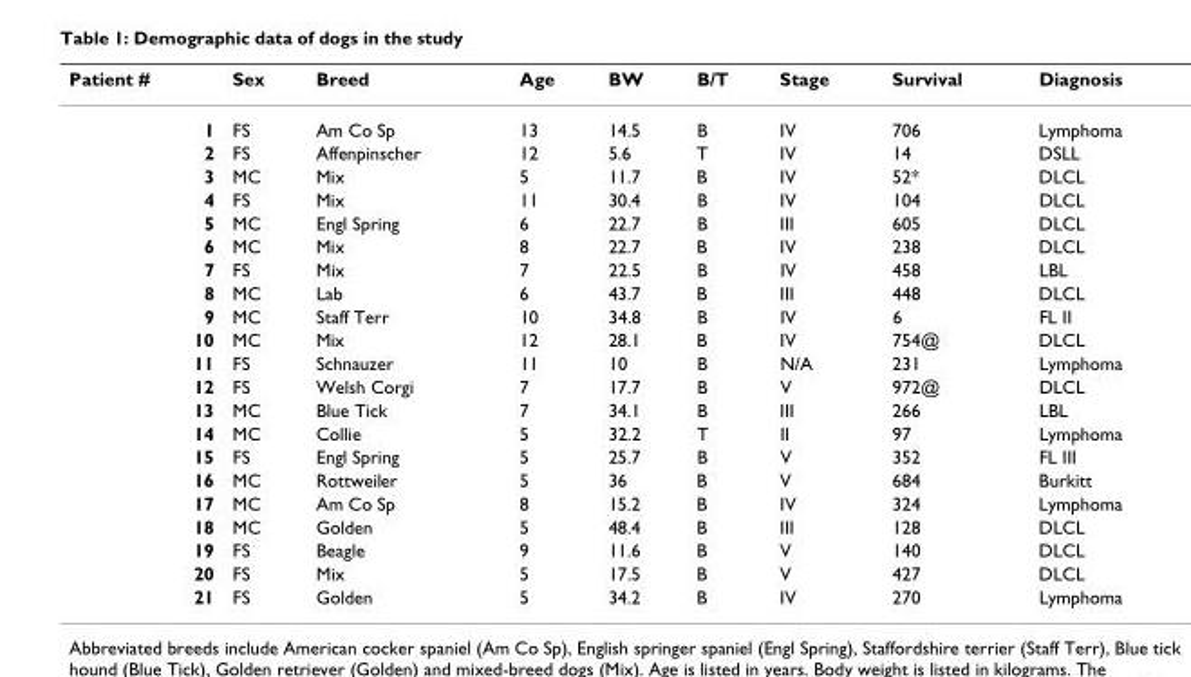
<table><thead><tr><td>Patient #</td><td>Sex</td><td>Breed</td><td>Age</td><td>BW</td><td>B/T</td><td>Stage</td><td>Survival</td><td>Diagnosis</td></tr></thead><tbody><tr><td>1</td><td>FS</td><td>Am Co Sp</td><td>13</td><td>14.5</td><td>B</td><td>IV</td><td>706</td><td>Lymphoma</td></tr><tr><td>2</td><td>FS</td><td>Affenpinscher</td><td>12</td><td>5.6</td><td>T</td><td>IV</td><td>14</td><td>DSLL</td></tr><tr><td>3</td><td>MC</td><td>Mix</td><td>5</td><td>11.7</td><td>B</td><td>IV</td><td>52*</td><td>DLCL</td></tr><tr><td>4</td><td>FS</td><td>Mix</td><td>11</td><td>30.4</td><td>B</td><td>IV</td><td>104</td><td>DLCL</td></tr><tr><td>5</td><td>MC</td><td>Engl Spring</td><td>6</td><td>22.7</td><td>B</td><td>III</td><td>605</td><td>DLCL</td></tr><tr><td>6</td><td>MC</td><td>Mix</td><td>8</td><td>22.7</td><td>B</td><td>IV</td><td>238</td><td>DLCL</td></tr><tr><td>7</td><td>FS</td><td>Mix</td><td>7</td><td>22.5</td><td>B</td><td>IV</td><td>458</td><td>LBL</td></tr><tr><td>8</td><td>MC</td><td>Lab</td><td>6</td><td>43.7</td><td>B</td><td>III</td><td>448</td><td>DLCL</td></tr><tr><td>9</td><td>MC</td><td>Staff Terr</td><td>10</td><td>34.8</td><td>B</td><td>IV</td><td>6</td><td>FL II</td></tr><tr><td>10</td><td>MC</td><td>Mix</td><td>12</td><td>28.1</td><td>B</td><td>IV</td><td>754@</td><td>DLCL</td></tr><tr><td>11</td><td>FS</td><td>Schnauzer</td><td>11</td><td>10</td><td>B</td><td>N/A</td><td>231</td><td>Lymphoma</td></tr><tr><td>12</td><td>FS</td><td>Welsh Corgi</td><td>7</td><td>17.7</td><td>B</td><td>V</td><td>972@</td><td>DLCL</td></tr><tr><td>13</td><td>MC</td><td>Blue Tick</td><td>7</td><td>34.1</td><td>B</td><td>III</td><td>266</td><td>LBL</td></tr><tr><td>14</td><td>MC</td><td>Collie</td><td>5</td><td>32.2</td><td>T</td><td>II</td><td>97</td><td>Lymphoma</td></tr><tr><td>15</td><td>FS</td><td>Engl Spring</td><td>5</td><td>25.7</td><td>B</td><td>V</td><td>352</td><td>FL III</td></tr><tr><td>16</td><td>MC</td><td>Rottweiler</td><td>5</td><td>36</td><td>B</td><td>V</td><td>684</td><td>Burkitt</td></tr><tr><td>17</td><td>MC</td><td>Am Co Sp</td><td>8</td><td>15.2</td><td>B</td><td>IV</td><td>324</td><td>Lymphoma</td></tr><tr><td>18</td><td>MC</td><td>Golden</td><td>5</td><td>48.4</td><td>B</td><td>III</td><td>128</td><td>DLCL</td></tr><tr><td>19</td><td>FS</td><td>Beagle</td><td>9</td><td>11.6</td><td>B</td><td>V</td><td>140</td><td>DLCL</td></tr><tr><td>20</td><td>FS</td><td>Mix</td><td>5</td><td>17.5</td><td>B</td><td>V</td><td>427</td><td>DLCL</td></tr><tr><td>21</td><td>FS</td><td>Golden</td><td>5</td><td>34.2</td><td>B</td><td>IV</td><td>270</td><td>Lymphoma</td></tr></tbody></table>